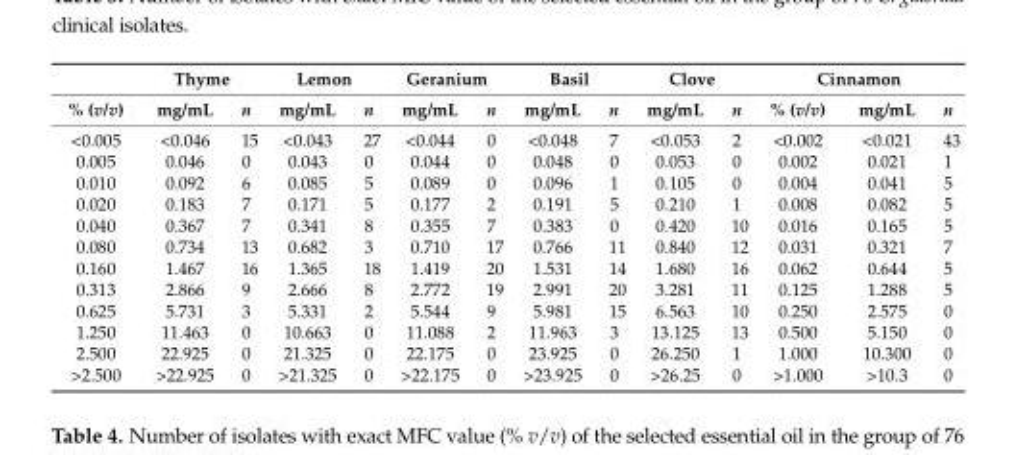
<table><thead><tr><td rowspan="2">% (v/v)</td><td colspan="2">Thyme</td><td colspan="2">Lemon</td><td colspan="2">Geranium</td><td colspan="2">Basil</td><td colspan="2">Clove</td><td colspan="3">Cinnamon</td></tr><tr><td>mg/mL</td><td>n</td><td>mg/mL</td><td>n</td><td>mg/mL</td><td>n</td><td>mg/mL</td><td>n</td><td>mg/mL</td><td>n</td><td>% (v/v)</td><td>mg/mL</td><td>n</td></tr></thead><tbody><tr><td>&lt;0.005</td><td>&lt;0.046</td><td>15</td><td>&lt;0.043</td><td>27</td><td>&lt;0.044</td><td>0</td><td>&lt;0.048</td><td>7</td><td>&lt;0.053</td><td>2</td><td>&lt;0.002</td><td>&lt;0.021</td><td>43</td></tr><tr><td>0.005</td><td>0.046</td><td>0</td><td>0.043</td><td>0</td><td>0.044</td><td>0</td><td>0.048</td><td>0</td><td>0.053</td><td>0</td><td>0.002</td><td>0.021</td><td>1</td></tr><tr><td>0.010</td><td>0.092</td><td>6</td><td>0.085</td><td>5</td><td>0.089</td><td>0</td><td>0.096</td><td>1</td><td>0.105</td><td>0</td><td>0.004</td><td>0.041</td><td>5</td></tr><tr><td>0.020</td><td>0.183</td><td>7</td><td>0.171</td><td>5</td><td>0.177</td><td>2</td><td>0.191</td><td>5</td><td>0.210</td><td>1</td><td>0.008</td><td>0.082</td><td>5</td></tr><tr><td>0.040</td><td>0.367</td><td>7</td><td>0.341</td><td>8</td><td>0.355</td><td>7</td><td>0.383</td><td>0</td><td>0.420</td><td>10</td><td>0.016</td><td>0.165</td><td>5</td></tr><tr><td>0.080</td><td>0.734</td><td>13</td><td>0.682</td><td>3</td><td>0.710</td><td>17</td><td>0.766</td><td>11</td><td>0.840</td><td>12</td><td>0.031</td><td>0.321</td><td>7</td></tr><tr><td>0.160</td><td>1.467</td><td>16</td><td>1.365</td><td>18</td><td>1.419</td><td>20</td><td>1.531</td><td>14</td><td>1.680</td><td>16</td><td>0.062</td><td>0.644</td><td>5</td></tr><tr><td>0.313</td><td>2.866</td><td>9</td><td>2.666</td><td>8</td><td>2.772</td><td>19</td><td>2.991</td><td>20</td><td>3.281</td><td>11</td><td>0.125</td><td>1.288</td><td>5</td></tr><tr><td>0.625</td><td>5.731</td><td>3</td><td>5.331</td><td>2</td><td>5.544</td><td>9</td><td>5.981</td><td>15</td><td>6.563</td><td>10</td><td>0.250</td><td>2.575</td><td>0</td></tr><tr><td>1.250</td><td>11.463</td><td>0</td><td>10.663</td><td>0</td><td>11.088</td><td>2</td><td>11.963</td><td>3</td><td>13.125</td><td>13</td><td>0.500</td><td>5.150</td><td>0</td></tr><tr><td>2.500</td><td>22.925</td><td>0</td><td>21.325</td><td>0</td><td>22.175</td><td>0</td><td>23.925</td><td>0</td><td>26.250</td><td>1</td><td>1.000</td><td>10.300</td><td>0</td></tr><tr><td>&gt;2.500</td><td>&gt;22.925</td><td>0</td><td>&gt;21.325</td><td>0</td><td>&gt;22.175</td><td>0</td><td>&gt;23.925</td><td>0</td><td>&gt;26.25</td><td>0</td><td>&gt;1.000</td><td>&gt;10.3</td><td>0</td></tr></tbody></table>